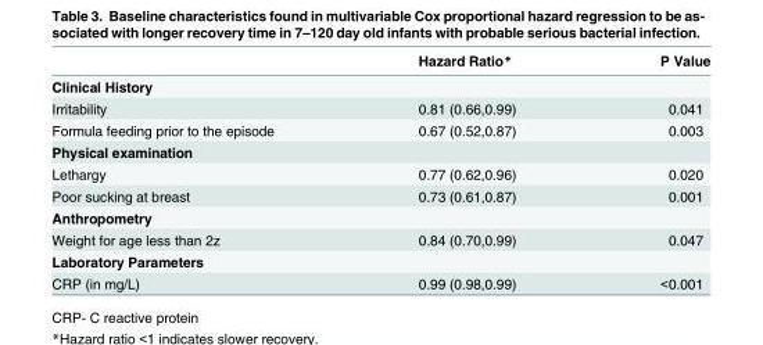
<table><thead><tr><td></td><td>Hazard Ratio*</td><td>P Value</td></tr></thead><tbody><tr><td colspan="3">Clinical History</td></tr><tr><td>Irritability</td><td>0.81 (0.66,0.99)</td><td>0.041</td></tr><tr><td>Formula feeding prior to the episode</td><td>0.67 (0.52,0.87)</td><td>0.003</td></tr><tr><td colspan="3">Physical examination</td></tr><tr><td>Lethargy</td><td>0.77 (0.62,0.96)</td><td>0.020</td></tr><tr><td>Poor sucking at breast</td><td>0.73 (0.61,0.87)</td><td>0.001</td></tr><tr><td colspan="3">Anthropometry</td></tr><tr><td>Weight for age less than 2z</td><td>0.84 (0.70,0.99)</td><td>0.047</td></tr><tr><td colspan="3">Laboratory Parameters</td></tr><tr><td>CRP (in mg/L)</td><td>0.99 (0.98,0.99)</td><td>&lt;0.001</td></tr></tbody></table>